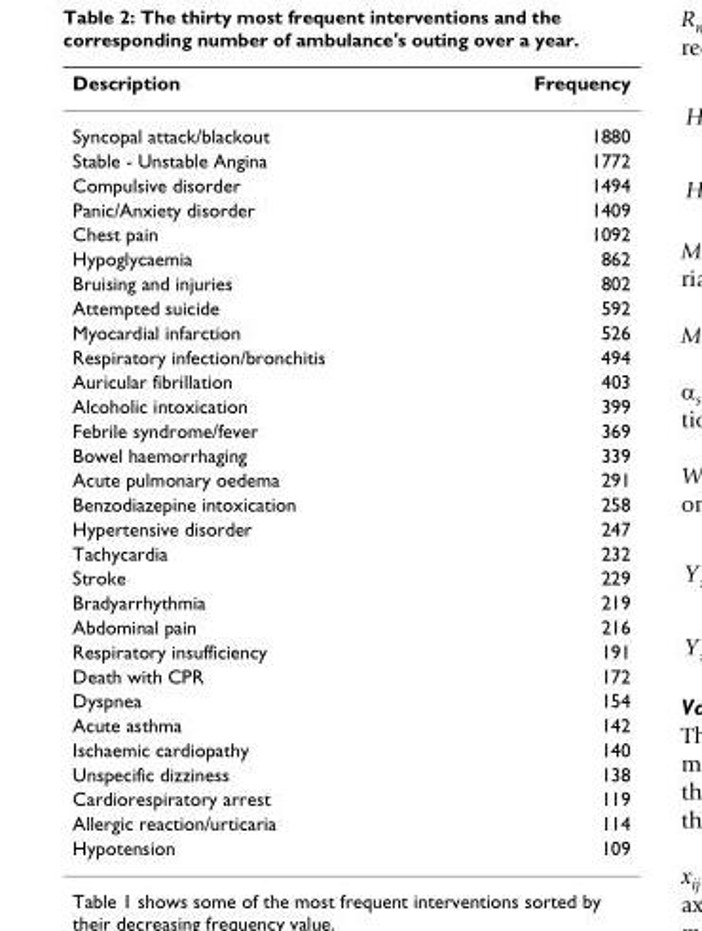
<table><thead><tr><td>Description</td><td>Frequency</td></tr></thead><tbody><tr><td>Syncopal attack/blackout</td><td>1880</td></tr><tr><td>Stable - Unstable Angina</td><td>1772</td></tr><tr><td>Compulsive disorder</td><td>1494</td></tr><tr><td>Panic/Anxiety disorder</td><td>1409</td></tr><tr><td>Chest pain</td><td>1092</td></tr><tr><td>Hypoglycaemia</td><td>862</td></tr><tr><td>Bruising and injuries</td><td>802</td></tr><tr><td>Attempted suicide</td><td>592</td></tr><tr><td>Myocardial infarction</td><td>526</td></tr><tr><td>Respiratory infection/bronchitis</td><td>494</td></tr><tr><td>Auricular fibrillation</td><td>403</td></tr><tr><td>Alcoholic intoxication</td><td>399</td></tr><tr><td>Febrile syndrome/fever</td><td>369</td></tr><tr><td>Bowel haemorrhaging</td><td>339</td></tr><tr><td>Acute pulmonary oedema</td><td>291</td></tr><tr><td>Benzodiazepine intoxication</td><td>258</td></tr><tr><td>Hypertensive disorder</td><td>247</td></tr><tr><td>Tachycardia</td><td>232</td></tr><tr><td>Stroke</td><td>229</td></tr><tr><td>Bradyarrhythmia</td><td>219</td></tr><tr><td>Abdominal pain</td><td>216</td></tr><tr><td>Respiratory insufficiency</td><td>191</td></tr><tr><td>Death with CPR</td><td>172</td></tr><tr><td>Dyspnea</td><td>154</td></tr><tr><td>Acute asthma</td><td>142</td></tr><tr><td>Ischaemic cardiopathy</td><td>140</td></tr><tr><td>Unspecific dizziness</td><td>138</td></tr><tr><td>Cardiorespiratory arrest</td><td>119</td></tr><tr><td>Allergic reaction/urticaria</td><td>114</td></tr><tr><td>Hypotension</td><td>109</td></tr></tbody></table>